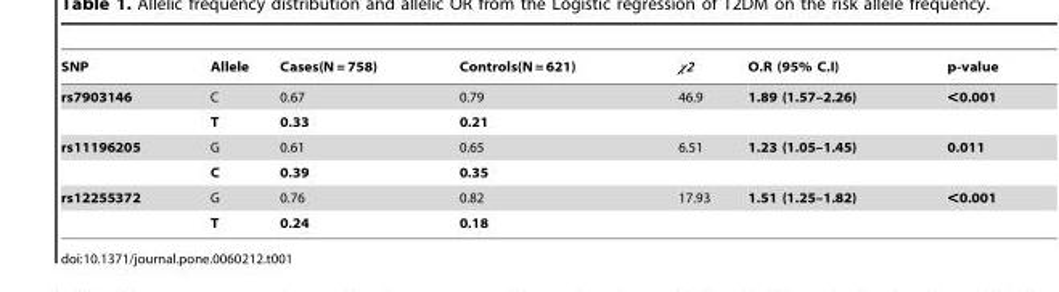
<table><thead><tr><td>SNP</td><td>Allele</td><td>Cases(N = 758)</td><td>Controls(N = 621)</td><td>χ2</td><td>O.R (95% C.I)</td><td>p-value</td></tr></thead><tbody><tr><td rowspan="2">rs7903146</td><td>C</td><td>0.67</td><td>0.79</td><td>46.9</td><td>1.89 (1.57–2.26)</td><td>&lt;0.001</td></tr><tr><td>T</td><td>0.33</td><td>0.21</td><td></td><td></td><td></td></tr><tr><td rowspan="2">rs11196205</td><td>G</td><td>0.61</td><td>0.65</td><td>6.51</td><td>1.23 (1.05–1.45)</td><td>0.011</td></tr><tr><td>C</td><td>0.39</td><td>0.35</td><td></td><td></td><td></td></tr><tr><td rowspan="2">rs12255372</td><td>G</td><td>0.76</td><td>0.82</td><td>17.93</td><td>1.51 (1.25–1.82)</td><td>&lt;0.001</td></tr><tr><td>T</td><td>0.24</td><td>0.18</td><td></td><td></td><td></td></tr></tbody></table>